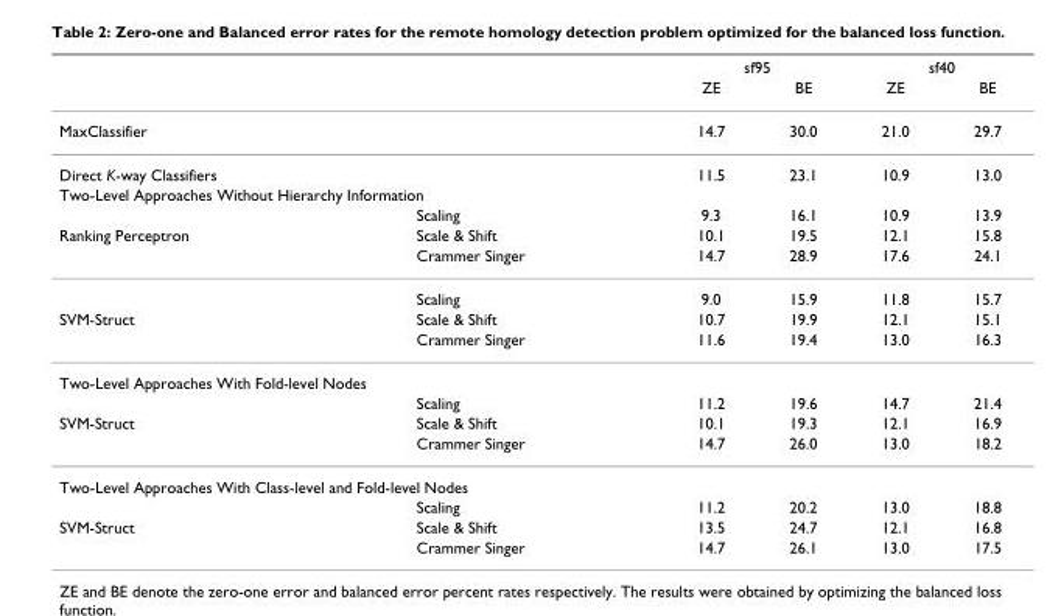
<table><thead><tr><td rowspan="2"></td><td rowspan="2"></td><td colspan="2">sf95</td><td colspan="2">sf40</td></tr><tr><td>ZE</td><td>BE</td><td>ZE</td><td>BE</td></tr></thead><tbody><tr><td>MaxClassifier</td><td></td><td>14.7</td><td>30.0</td><td>21.0</td><td>29.7</td></tr><tr><td>Direct K-way Classifiers</td><td></td><td>11.5</td><td>23.1</td><td>10.9</td><td>13.0</td></tr><tr><td colspan="6">Two-Level Approaches Without Hierarchy Information</td></tr><tr><td></td><td>Scaling</td><td>9.3</td><td>16.1</td><td>10.9</td><td>13.9</td></tr><tr><td rowspan="3">Ranking Perceptron</td><td>Scale &amp; Shift</td><td>10.1</td><td>19.5</td><td>12.1</td><td>15.8</td></tr><tr><td>Crammer Singer</td><td>14.7</td><td>28.9</td><td>17.6</td><td>24.1</td></tr><tr><td>Scaling</td><td>9.0</td><td>15.9</td><td>11.8</td><td>15.7</td></tr><tr><td rowspan="2">SVM-Struct</td><td>Scale &amp; Shift</td><td>10.7</td><td>19.9</td><td>12.1</td><td>15.1</td></tr><tr><td>Crammer Singer</td><td>11.6</td><td>19.4</td><td>13.0</td><td>16.3</td></tr><tr><td colspan="6">Two-Level Approaches With Fold-level Nodes</td></tr><tr><td></td><td>Scaling</td><td>11.2</td><td>19.6</td><td>14.7</td><td>21.4</td></tr><tr><td rowspan="2">SVM-Struct</td><td>Scale &amp; Shift</td><td>10.1</td><td>19.3</td><td>12.1</td><td>16.9</td></tr><tr><td>Crammer Singer</td><td>14.7</td><td>26.0</td><td>13.0</td><td>18.2</td></tr><tr><td colspan="6">Two-Level Approaches With Class-level and Fold-level Nodes</td></tr><tr><td></td><td>Scaling</td><td>11.2</td><td>20.2</td><td>13.0</td><td>18.8</td></tr><tr><td rowspan="2">SVM-Struct</td><td>Scale &amp; Shift</td><td>13.5</td><td>24.7</td><td>12.1</td><td>16.8</td></tr><tr><td>Crammer Singer</td><td>14.7</td><td>26.1</td><td>13.0</td><td>17.5</td></tr></tbody></table>